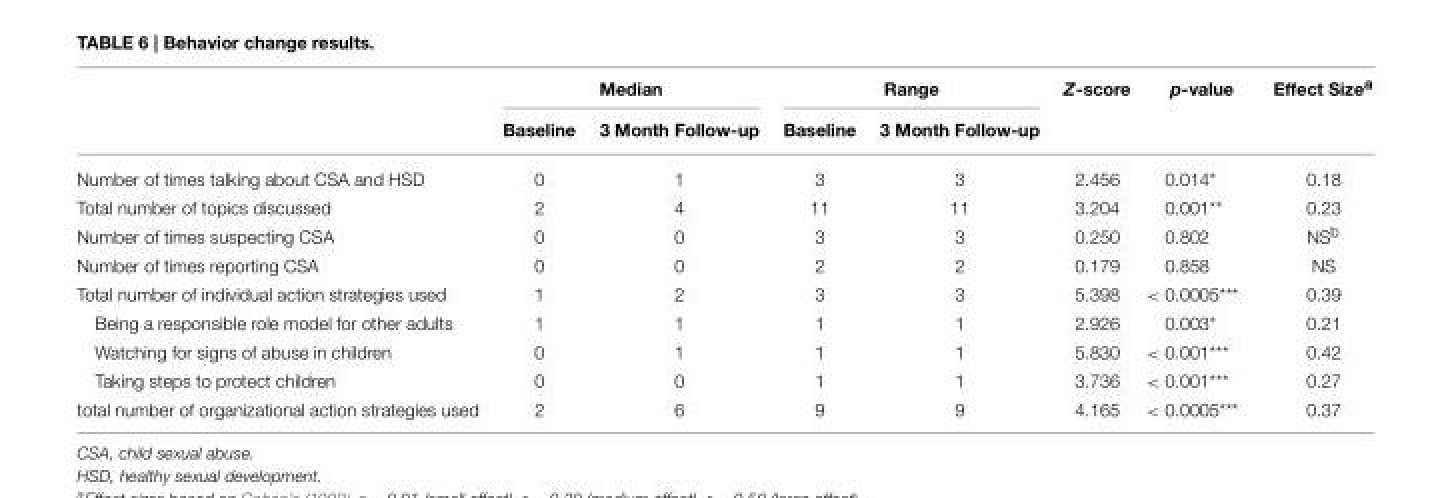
<table><thead><tr><td rowspan="2"></td><td colspan="2">Median</td><td colspan="2">Range</td><td rowspan="2">Z-score</td><td rowspan="2">p-value</td><td rowspan="2">Effect Size<sup>a</sup></td></tr><tr><td>Baseline</td><td>3 Month Follow-up</td><td>Baseline</td><td>3 Month Follow-up</td></tr></thead><tbody><tr><td>Number of times talking about CSA and HSD</td><td>0</td><td>1</td><td>3</td><td>3</td><td>2.456</td><td>0.014*</td><td>0.18</td></tr><tr><td>Total number of topics discussed</td><td>2</td><td>4</td><td>11</td><td>11</td><td>3.204</td><td>0.001**</td><td>0.23</td></tr><tr><td>Number of times suspecting CSA</td><td>0</td><td>0</td><td>3</td><td>3</td><td>0.250</td><td>0.802</td><td>NS<sup>b</sup></td></tr><tr><td>Number of times reporting CSA</td><td>0</td><td>0</td><td>2</td><td>2</td><td>0.179</td><td>0.858</td><td>NS</td></tr><tr><td>Total number of individual action strategies used</td><td>1</td><td>2</td><td>3</td><td>3</td><td>5.398</td><td>&lt; 0.0005***</td><td>0.39</td></tr><tr><td>Being a responsible role model for other adults</td><td>1</td><td>1</td><td>1</td><td>1</td><td>2.926</td><td>0.003*</td><td>0.21</td></tr><tr><td>Watching for signs of abuse in children</td><td>0</td><td>1</td><td>1</td><td>1</td><td>5.830</td><td>&lt; 0.001***</td><td>0.42</td></tr><tr><td>Taking steps to protect children</td><td>0</td><td>0</td><td>1</td><td>1</td><td>3.736</td><td>&lt; 0.001***</td><td>0.27</td></tr><tr><td>total number of organizational action strategies used</td><td>2</td><td>6</td><td>9</td><td>9</td><td>4.165</td><td>&lt; 0.0005***</td><td>0.37</td></tr></tbody></table>